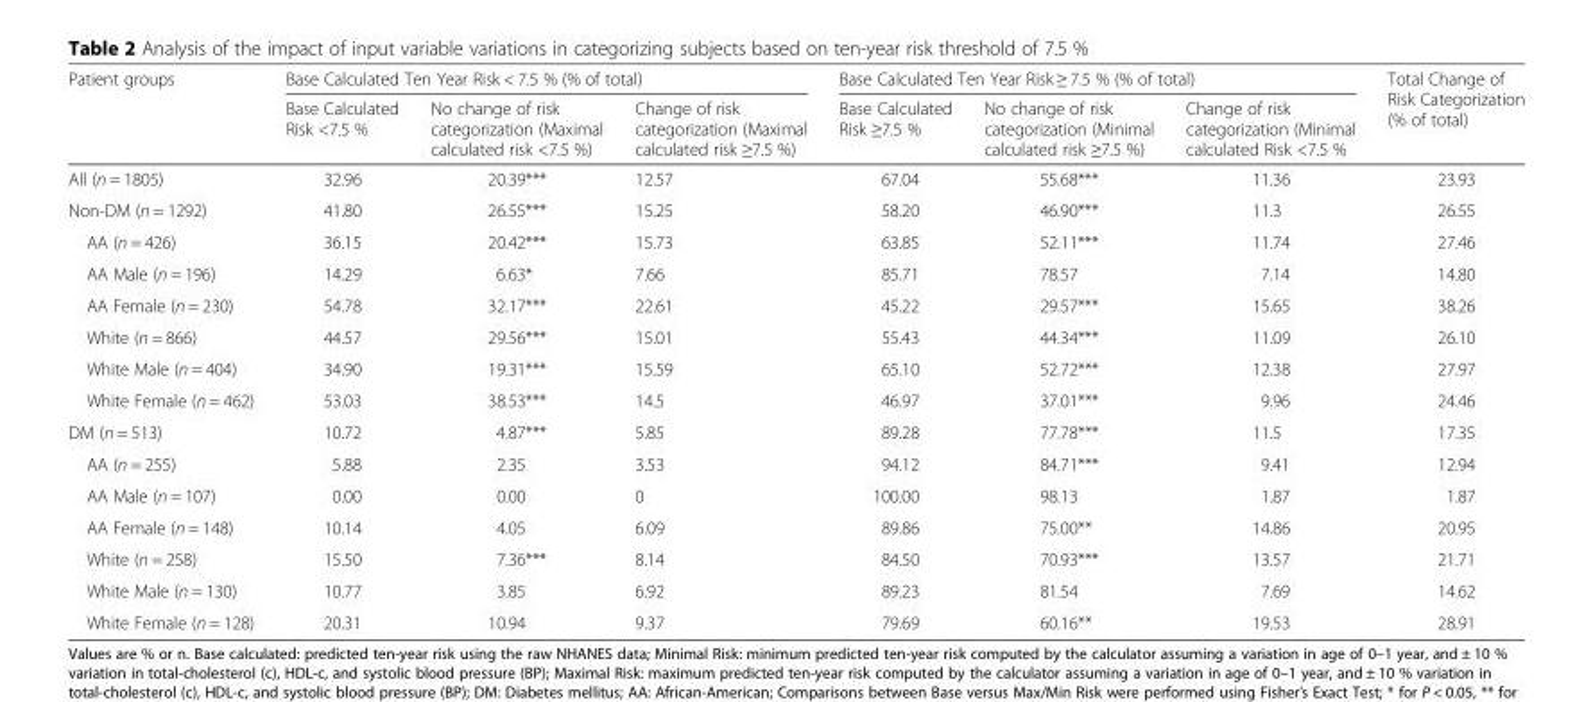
<table><thead><tr><td rowspan="2">Patient groups</td><td colspan="3">Base Calculated Ten Year Risk &lt; 7.5 % (% of total)</td><td colspan="3">Base Calculated Ten Year Risk ≥ 7.5 % (% of total)</td><td rowspan="2">Total Change of Risk Categorization (% of total)</td></tr><tr><td>Base Calculated Risk &lt;7.5 %</td><td>No change of risk categorization (Maximal calculated risk &lt;7.5 %)</td><td>Change of risk categorization (Maximal calculated risk ≥7.5 %)</td><td>Base Calculated Risk ≥7.5 %</td><td>No change of risk categorization (Minimal calculated risk ≥7.5 %)</td><td>Change of risk categorization (Minimal calculated Risk &lt;7.5 %</td></tr></thead><tbody><tr><td>All (n = 1805)</td><td>32.96</td><td>20.39***</td><td>12.57</td><td>67.04</td><td>55.68***</td><td>11.36</td><td>23.93</td></tr><tr><td>Non-DM (n = 1292)</td><td>41.80</td><td>26.55***</td><td>15.25</td><td>58.20</td><td>46.90***</td><td>11.3</td><td>26.55</td></tr><tr><td>AA (n = 426)</td><td>36.15</td><td>20.42***</td><td>15.73</td><td>63.85</td><td>52.11***</td><td>11.74</td><td>27.46</td></tr><tr><td>AA Male (n = 196)</td><td>14.29</td><td>6.63*</td><td>7.66</td><td>85.71</td><td>78.57</td><td>7.14</td><td>14.80</td></tr><tr><td>AA Female (n = 230)</td><td>54.78</td><td>32.17***</td><td>22.61</td><td>45.22</td><td>29.57***</td><td>15.65</td><td>38.26</td></tr><tr><td>White (n = 866)</td><td>44.57</td><td>29.56***</td><td>15.01</td><td>55.43</td><td>44.34***</td><td>11.09</td><td>26.10</td></tr><tr><td>White Male (n = 404)</td><td>34.90</td><td>19.31***</td><td>15.59</td><td>65.10</td><td>52.72***</td><td>12.38</td><td>27.97</td></tr><tr><td>White Female (n = 462)</td><td>53.03</td><td>38.53***</td><td>14.5</td><td>46.97</td><td>37.01***</td><td>9.96</td><td>24.46</td></tr><tr><td>DM (n = 513)</td><td>10.72</td><td>4.87***</td><td>5.85</td><td>89.28</td><td>77.78***</td><td>11.5</td><td>17.35</td></tr><tr><td>AA (n = 255)</td><td>5.88</td><td>2.35</td><td>3.53</td><td>94.12</td><td>84.71***</td><td>9.41</td><td>12.94</td></tr><tr><td>AA Male (n = 107)</td><td>0.00</td><td>0.00</td><td>0</td><td>100.00</td><td>98.13</td><td>1.87</td><td>1.87</td></tr><tr><td>AA Female (n = 148)</td><td>10.14</td><td>4.05</td><td>6.09</td><td>89.86</td><td>75.00**</td><td>14.86</td><td>20.95</td></tr><tr><td>White (n = 258)</td><td>15.50</td><td>7.36***</td><td>8.14</td><td>84.50</td><td>70.93***</td><td>13.57</td><td>21.71</td></tr><tr><td>White Male (n = 130)</td><td>10.77</td><td>3.85</td><td>6.92</td><td>89.23</td><td>81.54</td><td>7.69</td><td>14.62</td></tr><tr><td>White Female (n = 128)</td><td>20.31</td><td>10.94</td><td>9.37</td><td>79.69</td><td>60.16**</td><td>19.53</td><td>28.91</td></tr></tbody></table>